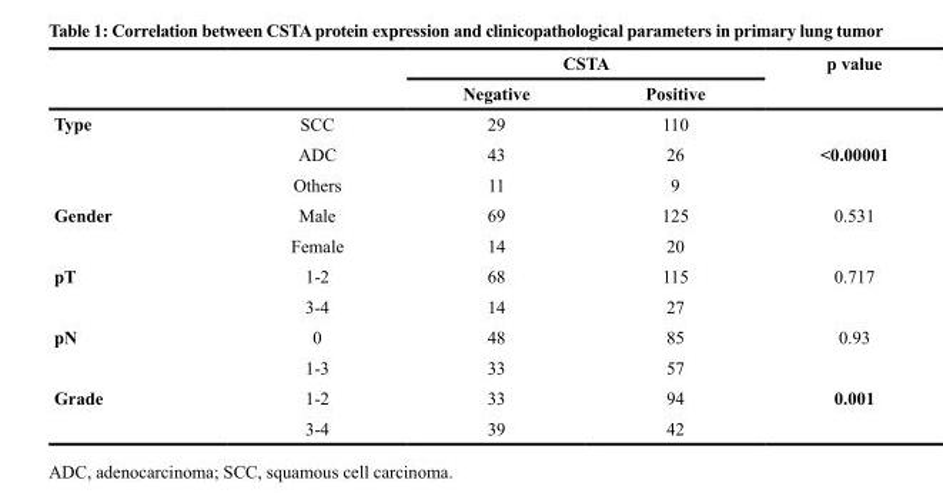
<table><thead><tr><td rowspan="2"></td><td rowspan="2"></td><td colspan="2">CSTA</td><td rowspan="2">p value</td></tr><tr><td>Negative</td><td>Positive</td></tr></thead><tbody><tr><td rowspan="3">Type</td><td>SCC</td><td>29</td><td>110</td><td></td></tr><tr><td>ADC</td><td>43</td><td>26</td><td>&lt;0.00001</td></tr><tr><td>Others</td><td>11</td><td>9</td><td></td></tr><tr><td rowspan="2">Gender</td><td>Male</td><td>69</td><td>125</td><td>0.531</td></tr><tr><td>Female</td><td>14</td><td>20</td><td></td></tr><tr><td rowspan="2">pT</td><td>1-2</td><td>68</td><td>115</td><td>0.717</td></tr><tr><td>3-4</td><td>14</td><td>27</td><td></td></tr><tr><td rowspan="2">pN</td><td>0</td><td>48</td><td>85</td><td>0.93</td></tr><tr><td>1-3</td><td>33</td><td>57</td><td></td></tr><tr><td rowspan="2">Grade</td><td>1-2</td><td>33</td><td>94</td><td>0.001</td></tr><tr><td>3-4</td><td>39</td><td>42</td><td></td></tr></tbody></table>